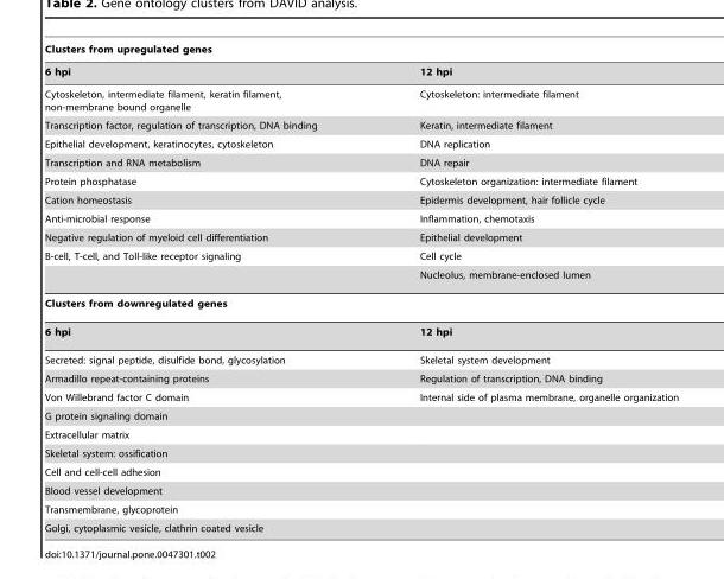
<table><thead><tr><td colspan="2">Clusters from upregulated genes</td></tr><tr><td>6 hpi</td><td>12 hpi</td></tr></thead><tbody><tr><td>Cytoskeleton, intermediate filament, keratin filament, non-membrane bound organelle</td><td>Cytoskeleton: intermediate filament</td></tr><tr><td>Transcription factor, regulation of transcription, DNA binding</td><td>Keratin, intermediate filament</td></tr><tr><td>Epithelial development, keratinocytes, cytoskeleton</td><td>DNA replication</td></tr><tr><td>Transcription and RNA metabolism</td><td>DNA repair</td></tr><tr><td>Protein phosphatase</td><td>Cytoskeleton organization: intermediate filament</td></tr><tr><td>Cation homeostasis</td><td>Epidermis development, hair follicle cycle</td></tr><tr><td>Anti-microbial response</td><td>Inflammation, chemotaxis</td></tr><tr><td>Negative regulation of myeloid cell differentiation</td><td>Epithelial development</td></tr><tr><td rowspan="2">B-cell, T-cell, and Toll-like receptor signaling</td><td>Cell cycle</td></tr><tr><td>Nucleolus, membrane-enclosed lumen</td></tr><tr><td colspan="2">Clusters from downregulated genes</td></tr><tr><td>6 hpi</td><td>12 hpi</td></tr><tr><td>Secreted: signal peptide, disulfide bond, glycosylation</td><td>Skeletal system development</td></tr><tr><td>Armadillo repeat-containing proteins</td><td>Regulation of transcription, DNA binding</td></tr><tr><td>Von Willebrand factor C domain</td><td>Internal side of plasma membrane, organelle organization</td></tr><tr><td colspan="2">G protein signaling domain</td></tr><tr><td colspan="2">Extracellular matrix</td></tr><tr><td colspan="2">Skeletal system: ossification</td></tr><tr><td colspan="2">Cell and cell-cell adhesion</td></tr><tr><td colspan="2">Blood vessel development</td></tr><tr><td colspan="2">Transmembrane, glycoprotein</td></tr><tr><td>Golgi, cytoplasmic vesicle, clathrin coated vesicle</td><td></td></tr></tbody></table>